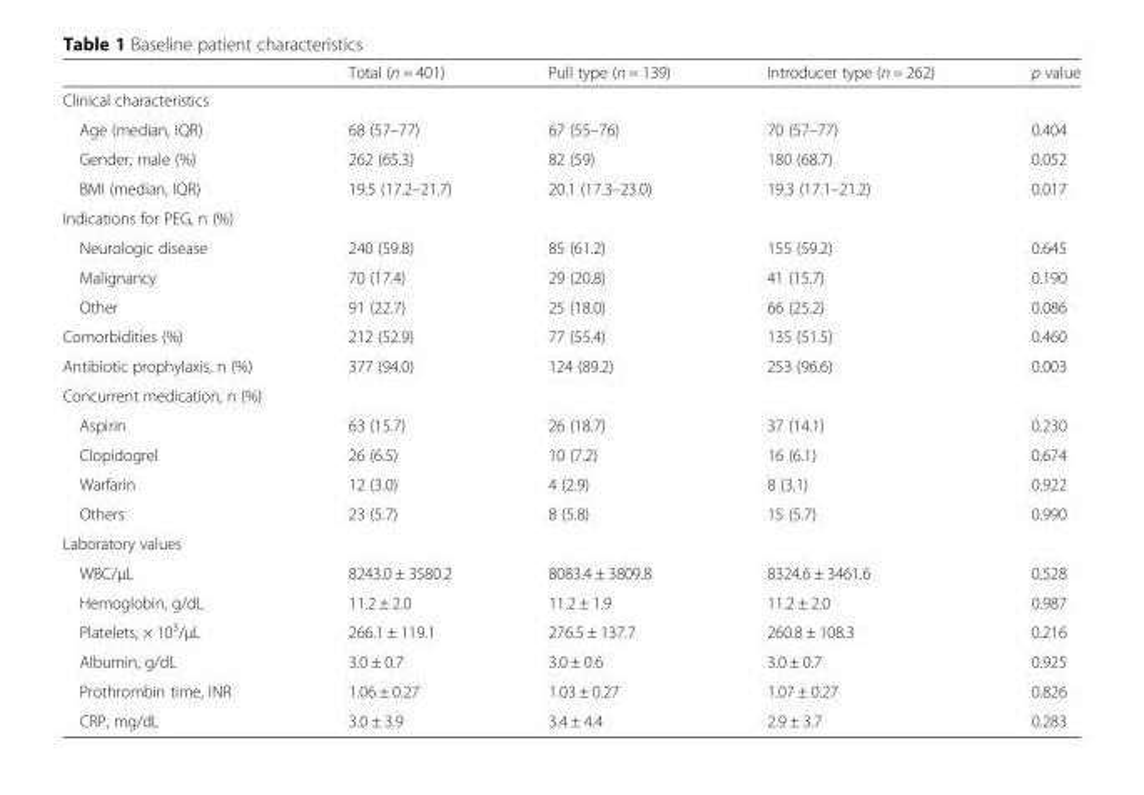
<table><thead><tr><td></td><td>Total (n = 401)</td><td>Pull type (n = 139)</td><td>Introducer type (n = 262)</td><td>p value</td></tr></thead><tbody><tr><td colspan="5">Clinical characteristics</td></tr><tr><td>Age (median, IQR)</td><td>68 (57–77)</td><td>67 (55–76)</td><td>70 (57–77)</td><td>0.404</td></tr><tr><td>Gender, male (%)</td><td>262 (65.3)</td><td>82 (59)</td><td>180 (68.7)</td><td>0.052</td></tr><tr><td>BMI (median, IQR)</td><td>19.5 (17.2–21.7)</td><td>20.1 (17.3–23.0)</td><td>19.3 (17.1–21.2)</td><td>0.017</td></tr><tr><td colspan="5">Indications for PEG, n (%)</td></tr><tr><td>Neurologic disease</td><td>240 (59.8)</td><td>85 (61.2)</td><td>155 (59.2)</td><td>0.645</td></tr><tr><td>Malignancy</td><td>70 (17.4)</td><td>29 (20.8)</td><td>41 (15.7)</td><td>0.190</td></tr><tr><td>Other</td><td>91 (22.7)</td><td>25 (18.0)</td><td>66 (25.2)</td><td>0.086</td></tr><tr><td>Comorbidities (%)</td><td>212 (52.9)</td><td>77 (55.4)</td><td>135 (51.5)</td><td>0.460</td></tr><tr><td>Antibiotic prophylaxis, n (%)</td><td>377 (94.0)</td><td>124 (89.2)</td><td>253 (96.6)</td><td>0.003</td></tr><tr><td colspan="5">Concurrent medication, n (%)</td></tr><tr><td>Aspirin</td><td>63 (15.7)</td><td>26 (18.7)</td><td>37 (14.1)</td><td>0.230</td></tr><tr><td>Clopidogrel</td><td>26 (6.5)</td><td>10 (7.2)</td><td>16 (6.1)</td><td>0.674</td></tr><tr><td>Warfarin</td><td>12 (3.0)</td><td>4 (2.9)</td><td>8 (3.1)</td><td>0.922</td></tr><tr><td>Others</td><td>23 (5.7)</td><td>8 (5.8)</td><td>15 (5.7)</td><td>0.990</td></tr><tr><td colspan="5">Laboratory values</td></tr><tr><td>WBC/μL</td><td>8243.0 ± 3580.2</td><td>8083.4 ± 3809.8</td><td>8324.6 ± 3461.6</td><td>0.528</td></tr><tr><td>Hemoglobin, g/dL</td><td>11.2 ± 2.0</td><td>11.2 ± 1.9</td><td>11.2 ± 2.0</td><td>0.987</td></tr><tr><td>Platelets, × 10<sup>3</sup>/μL</td><td>266.1 ± 119.1</td><td>276.5 ± 137.7</td><td>260.8 ± 108.3</td><td>0.216</td></tr><tr><td>Albumin, g/dL</td><td>3.0 ± 0.7</td><td>3.0 ± 0.6</td><td>3.0 ± 0.7</td><td>0.925</td></tr><tr><td>Prothrombin time, INR</td><td>1.06 ± 0.27</td><td>1.03 ± 0.27</td><td>1.07 ± 0.27</td><td>0.826</td></tr><tr><td>CRP, mg/dL</td><td>3.0 ± 3.9</td><td>3.4 ± 4.4</td><td>2.9 ± 3.7</td><td>0.283</td></tr></tbody></table>